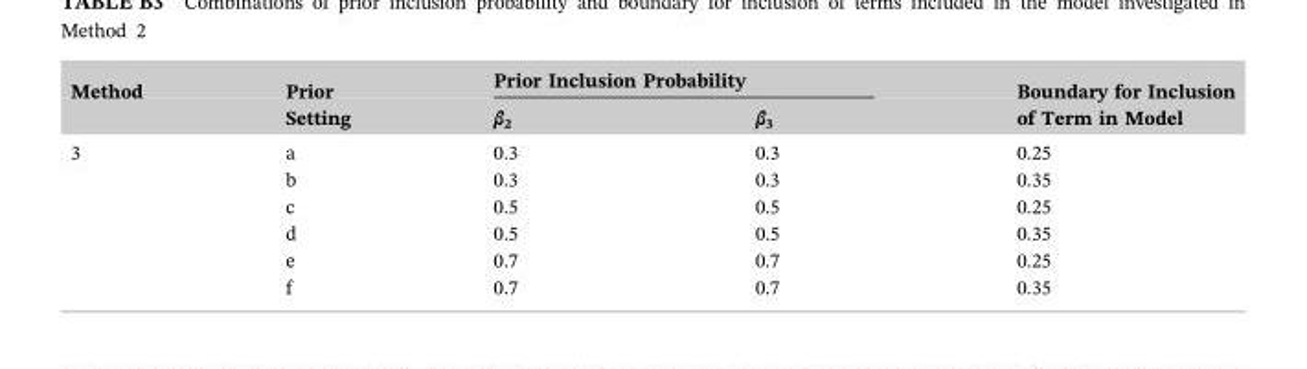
<table><thead><tr><td rowspan="2">Method</td><td rowspan="2">Prior Setting</td><td colspan="2">Prior Inclusion Probability</td><td rowspan="2">Boundary for Inclusion of Term in Model</td></tr><tr><td>β<sub>2</sub></td><td>β<sub>3</sub></td></tr></thead><tbody><tr><td rowspan="6">3</td><td>a</td><td>0.3</td><td>0.3</td><td>0.25</td></tr><tr><td>b</td><td>0.3</td><td>0.3</td><td>0.35</td></tr><tr><td>c</td><td>0.5</td><td>0.5</td><td>0.25</td></tr><tr><td>d</td><td>0.5</td><td>0.5</td><td>0.35</td></tr><tr><td>e</td><td>0.7</td><td>0.7</td><td>0.25</td></tr><tr><td>f</td><td>0.7</td><td>0.7</td><td>0.35</td></tr></tbody></table>